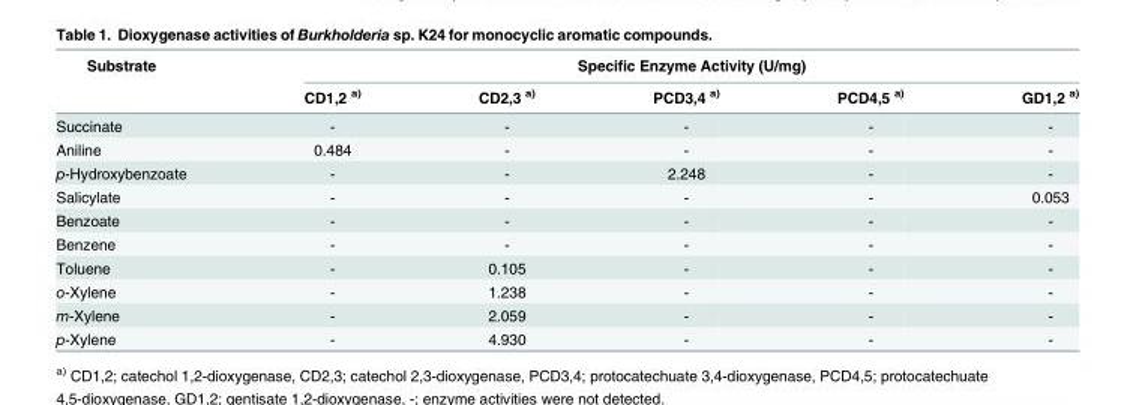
<table><thead><tr><td rowspan="2">Substrate</td><td colspan="5">Specific Enzyme Activity (U/mg)</td></tr><tr><td>CD1,2 <sup>a)</sup></td><td>CD2,3 <sup>a)</sup></td><td>PCD3,4 <sup>a)</sup></td><td>PCD4,5 <sup>a)</sup></td><td>GD1,2 <sup>a)</sup></td></tr></thead><tbody><tr><td>Succinate</td><td>-</td><td>-</td><td>-</td><td>-</td><td>-</td></tr><tr><td>Aniline</td><td>0.484</td><td>-</td><td>-</td><td>-</td><td>-</td></tr><tr><td>p-Hydroxybenzoate</td><td>-</td><td>-</td><td>2.248</td><td>-</td><td>-</td></tr><tr><td>Salicylate</td><td>-</td><td>-</td><td>-</td><td>-</td><td>0.053</td></tr><tr><td>Benzoate</td><td>-</td><td>-</td><td>-</td><td>-</td><td>-</td></tr><tr><td>Benzene</td><td>-</td><td>-</td><td>-</td><td>-</td><td>-</td></tr><tr><td>Toluene</td><td>-</td><td>0.105</td><td>-</td><td>-</td><td>-</td></tr><tr><td>o-Xylene</td><td>-</td><td>1.238</td><td>-</td><td>-</td><td>-</td></tr><tr><td>m-Xylene</td><td>-</td><td>2.059</td><td>-</td><td>-</td><td>-</td></tr><tr><td>p-Xylene</td><td>-</td><td>4.930</td><td>-</td><td>-</td><td>-</td></tr></tbody></table>